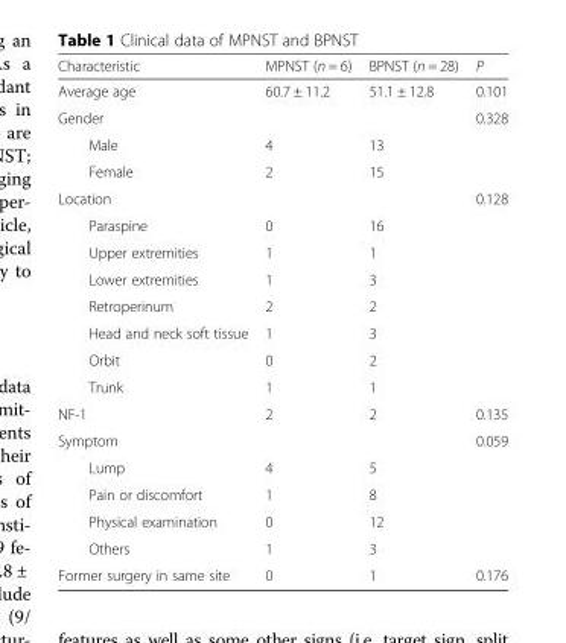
<table><thead><tr><td>Characteristic</td><td>MPNST (n = 6)</td><td>BPNST (n = 28)</td><td>P</td></tr></thead><tbody><tr><td>Average age</td><td>60.7 ± 11.2</td><td>51.1 ± 12.8</td><td>0.101</td></tr><tr><td>Gender</td><td></td><td></td><td>0.328</td></tr><tr><td>Male</td><td>4</td><td>13</td><td></td></tr><tr><td>Female</td><td>2</td><td>15</td><td></td></tr><tr><td>Location</td><td></td><td></td><td>0.128</td></tr><tr><td>Paraspine</td><td>0</td><td>16</td><td></td></tr><tr><td>Upper extremities</td><td>1</td><td>1</td><td></td></tr><tr><td>Lower extremities</td><td>1</td><td>3</td><td></td></tr><tr><td>Retroperinum</td><td>2</td><td>2</td><td></td></tr><tr><td>Head and neck soft tissue</td><td>1</td><td>3</td><td></td></tr><tr><td>Orbit</td><td>0</td><td>2</td><td></td></tr><tr><td>Trunk</td><td>1</td><td>1</td><td></td></tr><tr><td>NF-1</td><td>2</td><td>2</td><td>0.135</td></tr><tr><td>Symptom</td><td></td><td></td><td>0.059</td></tr><tr><td>Lump</td><td>4</td><td>5</td><td></td></tr><tr><td>Pain or discomfort</td><td>1</td><td>8</td><td></td></tr><tr><td>Physical examination</td><td>0</td><td>12</td><td></td></tr><tr><td>Others</td><td>1</td><td>3</td><td></td></tr><tr><td>Former surgery in same site</td><td>0</td><td>1</td><td>0.176</td></tr></tbody></table>